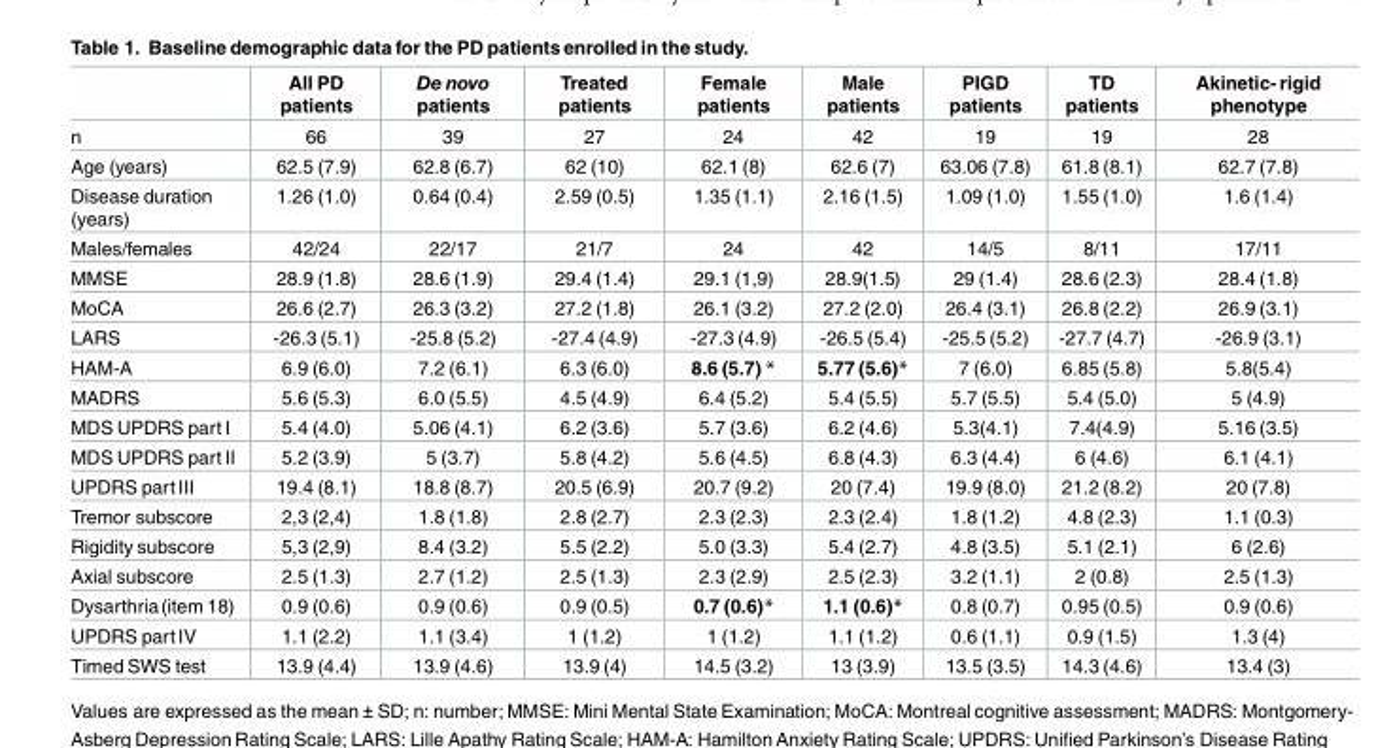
<table><thead><tr><td></td><td>All PD patients</td><td>De novo patients</td><td>Treated patients</td><td>Female patients</td><td>Male patients</td><td>PIGD patients</td><td>TD patients</td><td>Akinetic- rigid phenotype</td></tr></thead><tbody><tr><td>n</td><td>66</td><td>39</td><td>27</td><td>24</td><td>42</td><td>19</td><td>19</td><td>28</td></tr><tr><td>Age (years)</td><td>62.5 (7.9)</td><td>62.8 (6.7)</td><td>62 (10)</td><td>62.1 (8)</td><td>62.6 (7)</td><td>63.06 (7.8)</td><td>61.8 (8.1)</td><td>62.7 (7.8)</td></tr><tr><td>Disease duration (years)</td><td>1.26 (1.0)</td><td>0.64 (0.4)</td><td>2.59 (0.5)</td><td>1.35 (1.1)</td><td>2.16 (1.5)</td><td>1.09 (1.0)</td><td>1.55 (1.0)</td><td>1.6 (1.4)</td></tr><tr><td>Males/females</td><td>42/24</td><td>22/17</td><td>21/7</td><td>24</td><td>42</td><td>14/5</td><td>8/11</td><td>17/11</td></tr><tr><td>MMSE</td><td>28.9 (1.8)</td><td>28.6 (1.9)</td><td>29.4 (1.4)</td><td>29.1 (1,9)</td><td>28.9(1.5)</td><td>29 (1.4)</td><td>28.6 (2.3)</td><td>28.4 (1.8)</td></tr><tr><td>MoCA</td><td>26.6 (2.7)</td><td>26.3 (3.2)</td><td>27.2 (1.8)</td><td>26.1 (3.2)</td><td>27.2 (2.0)</td><td>26.4 (3.1)</td><td>26.8 (2.2)</td><td>26.9 (3.1)</td></tr><tr><td>LARS</td><td>-26.3 (5.1)</td><td>-25.8 (5.2)</td><td>-27.4 (4.9)</td><td>-27.3 (4.9)</td><td>-26.5 (5.4)</td><td>-25.5 (5.2)</td><td>-27.7 (4.7)</td><td>-26.9 (3.1)</td></tr><tr><td>HAM-A</td><td>6.9 (6.0)</td><td>7.2 (6.1)</td><td>6.3 (6.0)</td><td>8.6 (5.7) *</td><td>5.77 (5.6)*</td><td>7 (6.0)</td><td>6.85 (5.8)</td><td>5.8(5.4)</td></tr><tr><td>MADRS</td><td>5.6 (5.3)</td><td>6.0 (5.5)</td><td>4.5 (4.9)</td><td>6.4 (5.2)</td><td>5.4 (5.5)</td><td>5.7 (5.5)</td><td>5.4 (5.0)</td><td>5 (4.9)</td></tr><tr><td>MDS UPDRS part I</td><td>5.4 (4.0)</td><td>5.06 (4.1)</td><td>6.2 (3.6)</td><td>5.7 (3.6)</td><td>6.2 (4.6)</td><td>5.3(4.1)</td><td>7.4(4.9)</td><td>5.16 (3.5)</td></tr><tr><td>MDS UPDRS part II</td><td>5.2 (3.9)</td><td>5 (3.7)</td><td>5.8 (4.2)</td><td>5.6 (4.5)</td><td>6.8 (4.3)</td><td>6.3 (4.4)</td><td>6 (4.6)</td><td>6.1 (4.1)</td></tr><tr><td>UPDRS part III</td><td>19.4 (8.1)</td><td>18.8 (8.7)</td><td>20.5 (6.9)</td><td>20.7 (9.2)</td><td>20 (7.4)</td><td>19.9 (8.0)</td><td>21.2 (8.2)</td><td>20 (7.8)</td></tr><tr><td>Tremor subscore</td><td>2,3 (2,4)</td><td>1.8 (1.8)</td><td>2.8 (2.7)</td><td>2.3 (2.3)</td><td>2.3 (2.4)</td><td>1.8 (1.2)</td><td>4.8 (2.3)</td><td>1.1 (0.3)</td></tr><tr><td>Rigidity subscore</td><td>5,3 (2,9)</td><td>8.4 (3.2)</td><td>5.5 (2.2)</td><td>5.0 (3.3)</td><td>5.4 (2.7)</td><td>4.8 (3.5)</td><td>5.1 (2.1)</td><td>6 (2.6)</td></tr><tr><td>Axial subscore</td><td>2.5 (1.3)</td><td>2.7 (1.2)</td><td>2.5 (1.3)</td><td>2.3 (2.9)</td><td>2.5 (2.3)</td><td>3.2 (1.1)</td><td>2 (0.8)</td><td>2.5 (1.3)</td></tr><tr><td>Dysarthria(item 18)</td><td>0.9 (0.6)</td><td>0.9 (0.6)</td><td>0.9 (0.5)</td><td>0.7 (0.6)*</td><td>1.1 (0.6)*</td><td>0.8 (0.7)</td><td>0.95 (0.5)</td><td>0.9 (0.6)</td></tr><tr><td>UPDRS part IV</td><td>1.1 (2.2)</td><td>1.1 (3.4)</td><td>1 (1.2)</td><td>1 (1.2)</td><td>1.1 (1.2)</td><td>0.6 (1.1)</td><td>0.9 (1.5)</td><td>1.3 (4)</td></tr><tr><td>Timed SWS test</td><td>13.9 (4.4)</td><td>13.9 (4.6)</td><td>13.9 (4)</td><td>14.5 (3.2)</td><td>13 (3.9)</td><td>13.5 (3.5)</td><td>14.3 (4.6)</td><td>13.4 (3)</td></tr></tbody></table>